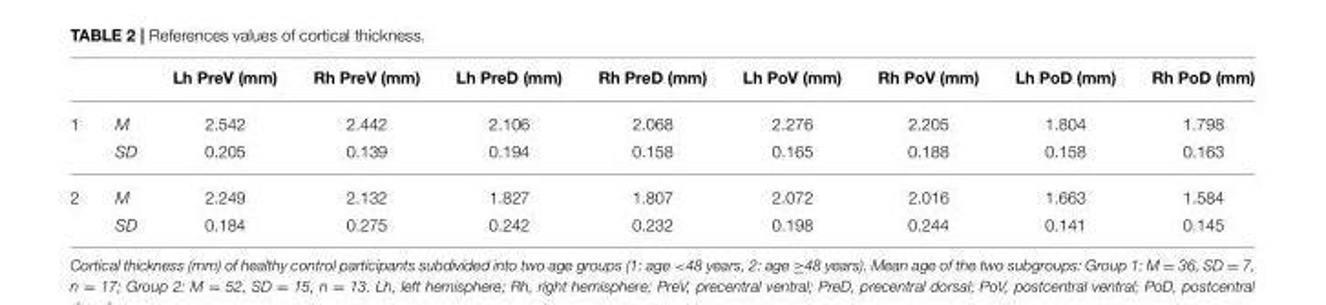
<table><thead><tr><td></td><td></td><td>Lh PreV (mm)</td><td>Rh PreV (mm)</td><td>Lh PreD (mm)</td><td>Rh PreD (mm)</td><td>Lh PoV (mm)</td><td>Rh PoV (mm)</td><td>Lh PoD (mm)</td><td>Rh PoD (mm)</td></tr></thead><tbody><tr><td rowspan="2">1</td><td>M</td><td>2.542</td><td>2.442</td><td>2.106</td><td>2.068</td><td>2.276</td><td>2.205</td><td>1.804</td><td>1.798</td></tr><tr><td>SD</td><td>0.205</td><td>0.139</td><td>0.194</td><td>0.158</td><td>0.165</td><td>0.188</td><td>0.158</td><td>0.163</td></tr><tr><td rowspan="2">2</td><td>M</td><td>2.249</td><td>2.132</td><td>1.827</td><td>1.807</td><td>2.072</td><td>2.016</td><td>1.663</td><td>1.584</td></tr><tr><td>SD</td><td>0.184</td><td>0.275</td><td>0.242</td><td>0.232</td><td>0.198</td><td>0.244</td><td>0.141</td><td>0.145</td></tr></tbody></table>